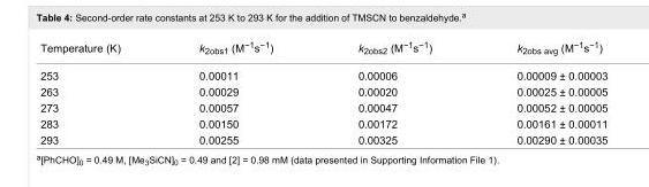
<table><tbody><tr><td>Temperature (K)</td><td>k<sub>2obs1</sub> (M<sup>−1</sup>s<sup>−1</sup>)</td><td>k<sub>2obs2</sub> (M<sup>−1</sup>s<sup>−1</sup>)</td><td>k<sub>2obs avg</sub> (M<sup>−1</sup>s<sup>−1</sup>)</td></tr><tr><td>253</td><td>0.00011</td><td>0.00006</td><td>0.00009 ± 0.00003</td></tr><tr><td>263</td><td>0.00029</td><td>0.00020</td><td>0.00025 ± 0.00005</td></tr><tr><td>273</td><td>0.00057</td><td>0.00047</td><td>0.00052 ± 0.00005</td></tr><tr><td>283</td><td>0.00150</td><td>0.00172</td><td>0.00161 ± 0.00011</td></tr><tr><td>293</td><td>0.00255</td><td>0.00325</td><td>0.00290 ± 0.00035</td></tr></tbody></table>